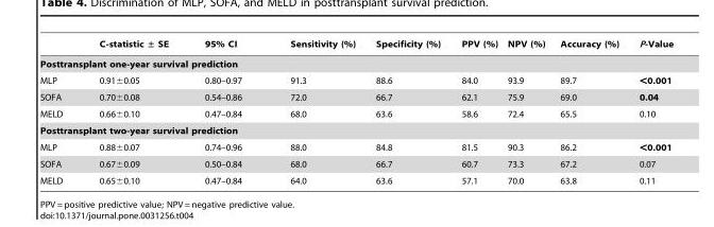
<table><thead><tr><td></td><td>C-statistic ± SE</td><td>95% CI</td><td>Sensitivity (%)</td><td>Specificity (%)</td><td>PPV (%)</td><td>NPV (%)</td><td>Accuracy (%)</td><td>P-Value</td></tr></thead><tbody><tr><td colspan="9">Posttransplant one-year survival prediction</td></tr><tr><td>MLP</td><td>0.91±0.05</td><td>0.80–0.97</td><td>91.3</td><td>88.6</td><td>84.0</td><td>93.9</td><td>89.7</td><td>&lt;0.001</td></tr><tr><td>SOFA</td><td>0.70±0.08</td><td>0.54–0.86</td><td>72.0</td><td>66.7</td><td>62.1</td><td>75.9</td><td>69.0</td><td>0.04</td></tr><tr><td>MELD</td><td>0.66±0.10</td><td>0.47–0.84</td><td>68.0</td><td>63.6</td><td>58.6</td><td>72.4</td><td>65.5</td><td>0.10</td></tr><tr><td colspan="9">Posttransplant two-year survival prediction</td></tr><tr><td>MLP</td><td>0.88±0.07</td><td>0.74–0.96</td><td>88.0</td><td>84.8</td><td>81.5</td><td>90.3</td><td>86.2</td><td>&lt;0.001</td></tr><tr><td>SOFA</td><td>0.67±0.09</td><td>0.50–0.84</td><td>68.0</td><td>66.7</td><td>60.7</td><td>73.3</td><td>67.2</td><td>0.07</td></tr><tr><td>MELD</td><td>0.65±0.10</td><td>0.47–0.84</td><td>64.0</td><td>63.6</td><td>57.1</td><td>70.0</td><td>63.8</td><td>0.11</td></tr></tbody></table>